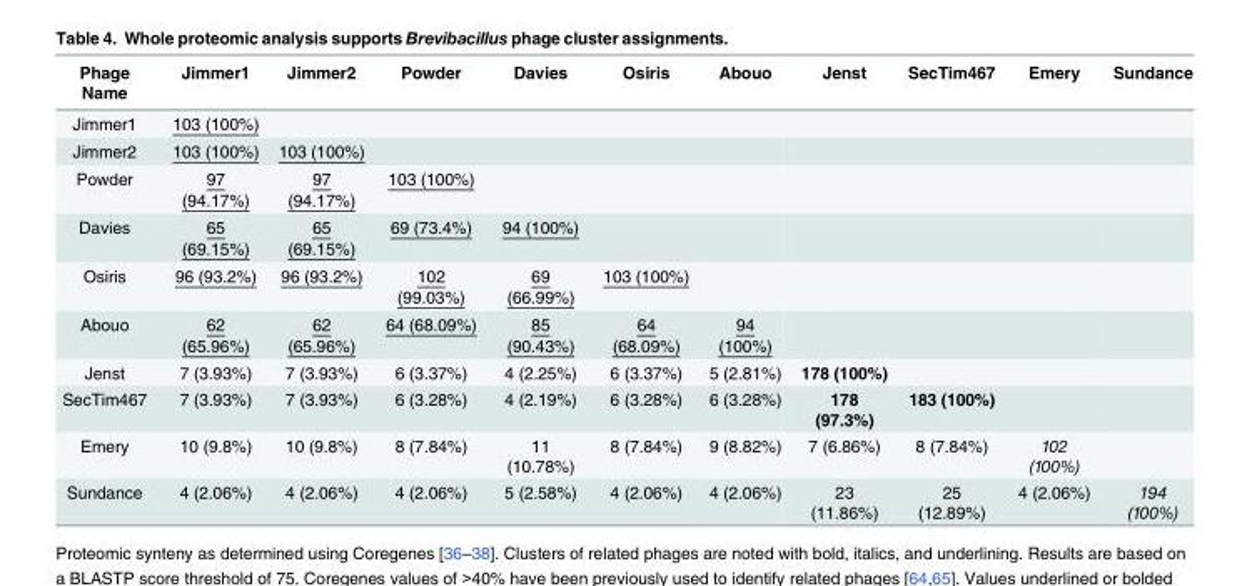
<table><thead><tr><td>Phage Name</td><td>Jimmer1</td><td>Jimmer2</td><td>Powder</td><td>Davies</td><td>Osiris</td><td>Abouo</td><td>Jenst</td><td>SecTim467</td><td>Emery</td><td>Sundance</td></tr></thead><tbody><tr><td>Jimmer1</td><td>103 (100%)</td><td></td><td></td><td></td><td></td><td></td><td></td><td></td><td></td><td></td></tr><tr><td>Jimmer2</td><td>103 (100%)</td><td>103 (100%)</td><td></td><td></td><td></td><td></td><td></td><td></td><td></td><td></td></tr><tr><td>Powder</td><td>97 (94.17%)</td><td>97 (94.17%)</td><td>103 (100%)</td><td></td><td></td><td></td><td></td><td></td><td></td><td></td></tr><tr><td>Davies</td><td>65 (69.15%)</td><td>65 (69.15%)</td><td>69 (73.4%)</td><td>94 (100%)</td><td></td><td></td><td></td><td></td><td></td><td></td></tr><tr><td>Osiris</td><td>96 (93.2%)</td><td>96 (93.2%)</td><td>102 (99.03%)</td><td>69 (66.99%)</td><td>103 (100%)</td><td></td><td></td><td></td><td></td><td></td></tr><tr><td>Abouo</td><td>62 (65.96%)</td><td>62 (65.96%)</td><td>64 (68.09%)</td><td>85 (90.43%)</td><td>64 (68.09%)</td><td>94 (100%)</td><td></td><td></td><td></td><td></td></tr><tr><td>Jenst</td><td>7 (3.93%)</td><td>7 (3.93%)</td><td>6 (3.37%)</td><td>4 (2.25%)</td><td>6 (3.37%)</td><td>5 (2.81%)</td><td>178 (100%)</td><td></td><td></td><td></td></tr><tr><td>SecTim467</td><td>7 (3.93%)</td><td>7 (3.93%)</td><td>6 (3.28%)</td><td>4 (2.19%)</td><td>6 (3.28%)</td><td>6 (3.28%)</td><td>178 (97.3%)</td><td>183 (100%)</td><td></td><td></td></tr><tr><td>Emery</td><td>10 (9.8%)</td><td>10 (9.8%)</td><td>8 (7.84%)</td><td>11 (10.78%)</td><td>8 (7.84%)</td><td>9 (8.82%)</td><td>7 (6.86%)</td><td>8 (7.84%)</td><td>102 (100%)</td><td></td></tr><tr><td>Sundance</td><td>4 (2.06%)</td><td>4 (2.06%)</td><td>4 (2.06%)</td><td>5 (2.58%)</td><td>4 (2.06%)</td><td>4 (2.06%)</td><td>23 (11.86%)</td><td>25 (12.89%)</td><td>4 (2.06%)</td><td>194 (100%)</td></tr></tbody></table>